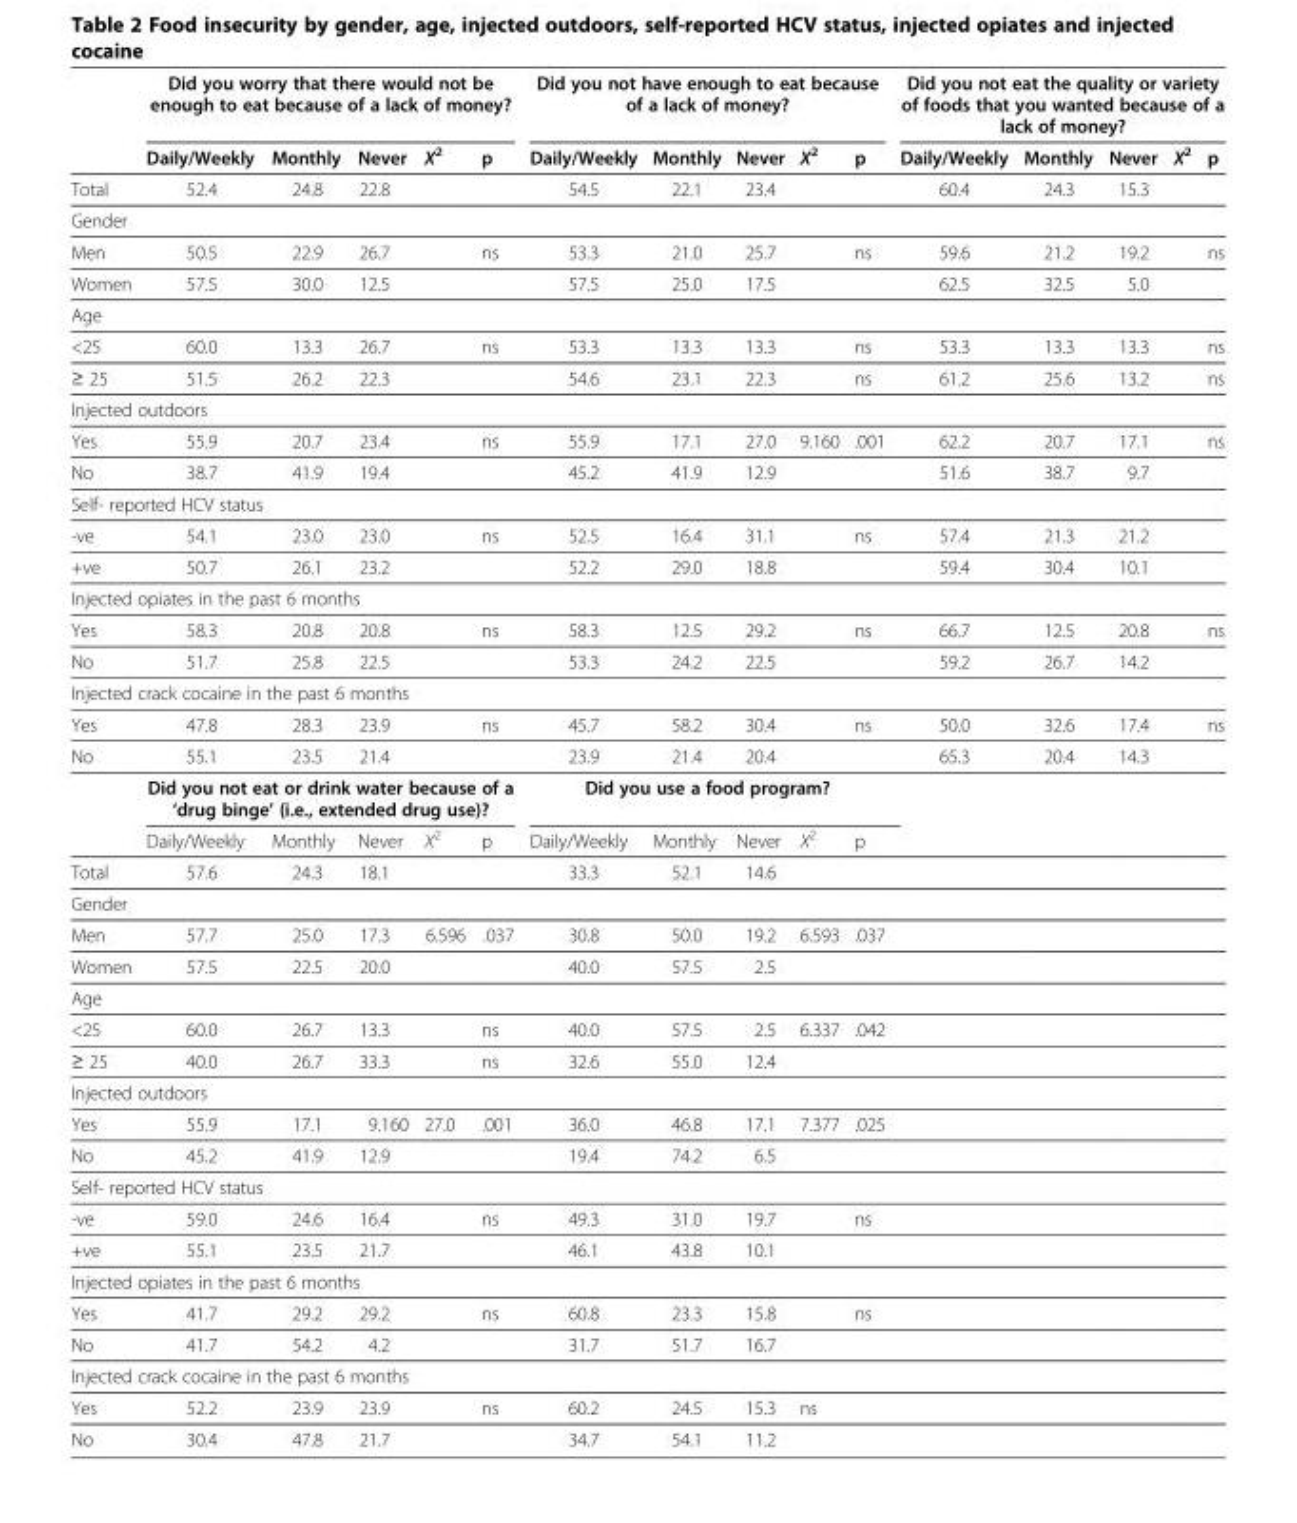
<table><thead><tr><td rowspan="2"></td><td colspan="5">Did you worry that there would not be enough to eat because of a lack of money?</td><td colspan="5">Did you not have enough to eat because of a lack of money?</td><td colspan="5">Did you not eat the quality or variety of foods that you wanted because of a lack of money?</td></tr><tr><td>Daily/Weekly</td><td>Monthly</td><td>Never</td><td>X<sup>2</sup></td><td>p</td><td>Daily/Weekly</td><td>Monthly</td><td>Never</td><td>X<sup>2</sup></td><td>p</td><td>Daily/Weekly</td><td>Monthly</td><td>Never</td><td>X<sup>2</sup></td><td>p</td></tr></thead><tbody><tr><td>Total</td><td>52.4</td><td>24.8</td><td>22.8</td><td></td><td></td><td>54.5</td><td>22.1</td><td>23.4</td><td></td><td></td><td>60.4</td><td>24.3</td><td>15.3</td><td></td><td></td></tr><tr><td colspan="16">Gender</td></tr><tr><td>Men</td><td>50.5</td><td>22.9</td><td>26.7</td><td></td><td>ns</td><td>53.3</td><td>21.0</td><td>25.7</td><td></td><td>ns</td><td>59.6</td><td>21.2</td><td>19.2</td><td></td><td>ns</td></tr><tr><td>Women</td><td>57.5</td><td>30.0</td><td>12.5</td><td></td><td></td><td>57.5</td><td>25.0</td><td>17.5</td><td></td><td></td><td>62.5</td><td>32.5</td><td>5.0</td><td></td><td></td></tr><tr><td colspan="16">Age</td></tr><tr><td>&lt;25</td><td>60.0</td><td>13.3</td><td>26.7</td><td></td><td>ns</td><td>53.3</td><td>13.3</td><td>13.3</td><td></td><td>ns</td><td>53.3</td><td>13.3</td><td>13.3</td><td></td><td>ns</td></tr><tr><td>≥ 25</td><td>51.5</td><td>26.2</td><td>22.3</td><td></td><td></td><td>54.6</td><td>23.1</td><td>22.3</td><td></td><td>ns</td><td>61.2</td><td>25.6</td><td>13.2</td><td></td><td>ns</td></tr><tr><td colspan="16">Injected outdoors</td></tr><tr><td>Yes</td><td>55.9</td><td>20.7</td><td>23.4</td><td></td><td>ns</td><td>55.9</td><td>17.1</td><td>27.0</td><td>9.160</td><td>.001</td><td>62.2</td><td>20.7</td><td>17.1</td><td></td><td>ns</td></tr><tr><td>No</td><td>38.7</td><td>41.9</td><td>19.4</td><td></td><td></td><td>45.2</td><td>41.9</td><td>12.9</td><td></td><td></td><td>51.6</td><td>38.7</td><td>9.7</td><td></td><td></td></tr><tr><td colspan="16">Self- reported HCV status</td></tr><tr><td>-ve</td><td>54.1</td><td>23.0</td><td>23.0</td><td></td><td>ns</td><td>52.5</td><td>16.4</td><td>31.1</td><td></td><td>ns</td><td>57.4</td><td>21.3</td><td>21.2</td><td></td><td></td></tr><tr><td>+ve</td><td>50.7</td><td>26.1</td><td>23.2</td><td></td><td></td><td>52.2</td><td>29.0</td><td>18.8</td><td></td><td></td><td>59.4</td><td>30.4</td><td>10.1</td><td></td><td></td></tr><tr><td colspan="16">Injected opiates in the past 6 months</td></tr><tr><td>Yes</td><td>58.3</td><td>20.8</td><td>20.8</td><td></td><td>ns</td><td>58.3</td><td>12.5</td><td>29.2</td><td></td><td>ns</td><td>66.7</td><td>12.5</td><td>20.8</td><td></td><td>ns</td></tr><tr><td>No</td><td>51.7</td><td>25.8</td><td>22.5</td><td></td><td></td><td>53.3</td><td>24.2</td><td>22.5</td><td></td><td></td><td>59.2</td><td>26.7</td><td>14.2</td><td></td><td></td></tr><tr><td colspan="16">Injected crack cocaine in the past 6 months</td></tr><tr><td>Yes</td><td>47.8</td><td>28.3</td><td>23.9</td><td></td><td>ns</td><td>45.7</td><td>58.2</td><td>30.4</td><td></td><td>ns</td><td>50.0</td><td>32.6</td><td>17.4</td><td></td><td>ns</td></tr><tr><td rowspan="3">No</td><td>55.1</td><td>23.5</td><td>21.4</td><td></td><td></td><td>23.9</td><td>21.4</td><td>20.4</td><td></td><td></td><td>65.3</td><td>20.4</td><td>14.3</td><td></td><td></td></tr><tr><td colspan="5">Did you not eat or drink water because of a ‘drug binge’ (i.e., extended drug use)?</td><td colspan="5">Did you use a food program?</td><td></td><td></td><td></td><td></td><td></td></tr><tr><td>Daily/Weekly</td><td>Monthly</td><td>Never</td><td>X<sup>2</sup></td><td>p</td><td>Daily/Weekly</td><td>Monthly</td><td>Never</td><td>X<sup>2</sup></td><td>p</td><td></td><td></td><td></td><td></td><td></td></tr><tr><td>Total</td><td>57.6</td><td>24.3</td><td>18.1</td><td></td><td></td><td>33.3</td><td>52.1</td><td>14.6</td><td></td><td></td><td></td><td></td><td></td><td></td><td></td></tr><tr><td colspan="16">Gender</td></tr><tr><td>Men</td><td>57.7</td><td>25.0</td><td>17.3</td><td>6.596</td><td>.037</td><td>30.8</td><td>50.0</td><td>19.2</td><td>6.593</td><td>.037</td><td></td><td></td><td></td><td></td><td></td></tr><tr><td>Women</td><td>57.5</td><td>22.5</td><td>20.0</td><td></td><td></td><td>40.0</td><td>57.5</td><td>2.5</td><td></td><td></td><td></td><td></td><td></td><td></td><td></td></tr><tr><td colspan="16">Age</td></tr><tr><td>&lt;25</td><td>60.0</td><td>26.7</td><td>13.3</td><td></td><td>ns</td><td>40.0</td><td>57.5</td><td>2.5</td><td>6.337</td><td>.042</td><td></td><td></td><td></td><td></td><td></td></tr><tr><td>≥ 25</td><td>40.0</td><td>26.7</td><td>33.3</td><td></td><td>ns</td><td>32.6</td><td>55.0</td><td>12.4</td><td></td><td></td><td></td><td></td><td></td><td></td><td></td></tr><tr><td colspan="16">Injected outdoors</td></tr><tr><td>Yes</td><td>55.9</td><td>17.1</td><td>9.160</td><td>27.0</td><td>.001</td><td>36.0</td><td>46.8</td><td>17.1</td><td>7.377</td><td>.025</td><td></td><td></td><td></td><td></td><td></td></tr><tr><td>No</td><td>45.2</td><td>41.9</td><td>12.9</td><td></td><td></td><td>19.4</td><td>74.2</td><td>6.5</td><td></td><td></td><td></td><td></td><td></td><td></td><td></td></tr><tr><td colspan="16">Self- reported HCV status</td></tr><tr><td>-ve</td><td>59.0</td><td>24.6</td><td>16.4</td><td></td><td>ns</td><td>49.3</td><td>31.0</td><td>19.7</td><td></td><td>ns</td><td></td><td></td><td></td><td></td><td></td></tr><tr><td>+ve</td><td>55.1</td><td>23.5</td><td>21.7</td><td></td><td></td><td>46.1</td><td>43.8</td><td>10.1</td><td></td><td></td><td></td><td></td><td></td><td></td><td></td></tr><tr><td colspan="16">Injected opiates in the past 6 months</td></tr><tr><td>Yes</td><td>41.7</td><td>29.2</td><td>29.2</td><td></td><td>ns</td><td>60.8</td><td>23.3</td><td>15.8</td><td></td><td>ns</td><td></td><td></td><td></td><td></td><td></td></tr><tr><td>No</td><td>41.7</td><td>54.2</td><td>4.2</td><td></td><td></td><td>31.7</td><td>51.7</td><td>16.7</td><td></td><td></td><td></td><td></td><td></td><td></td><td></td></tr><tr><td colspan="16">Injected crack cocaine in the past 6 months</td></tr><tr><td>Yes</td><td>52.2</td><td>23.9</td><td>23.9</td><td></td><td>ns</td><td>60.2</td><td>24.5</td><td>15.3</td><td>ns</td><td></td><td></td><td></td><td></td><td></td><td></td></tr><tr><td>No</td><td>30.4</td><td>47.8</td><td>21.7</td><td></td><td></td><td>34.7</td><td>54.1</td><td>11.2</td><td></td><td></td><td></td><td></td><td></td><td></td><td></td></tr></tbody></table>